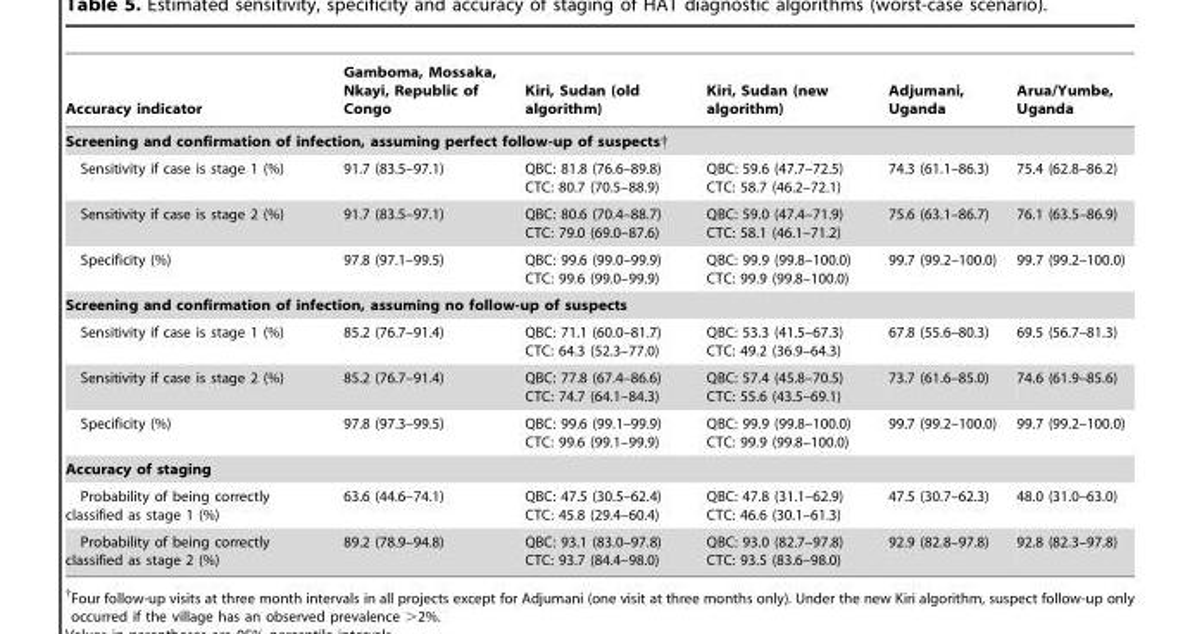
<table><thead><tr><td>Accuracy indicator</td><td>Gamboma, Mossaka, Nkayi, Republic of Congo</td><td>Kiri, Sudan (old algorithm)</td><td>Kiri, Sudan (new algorithm)</td><td>Adjumani, Uganda</td><td>Arua/Yumbe, Uganda</td></tr></thead><tbody><tr><td colspan="6">Screening and confirmation of infection, assuming perfect follow-up of suspects†</td></tr><tr><td>Sensitivity if case is stage 1 (%)</td><td>91.7 (83.5–97.1)</td><td>QBC: 81.8 (76.6–89.8) CTC: 80.7 (70.5–88.9)</td><td>QBC: 59.6 (47.7–72.5) CTC: 58.7 (46.2–72.1)</td><td>74.3 (61.1–86.3)</td><td>75.4 (62.8–86.2)</td></tr><tr><td>Sensitivity if case is stage 2 (%)</td><td>91.7 (83.5–97.1)</td><td>QBC: 80.6 (70.4–88.7) CTC: 79.0 (69.0–87.6)</td><td>QBC: 59.0 (47.4–71.9) CTC: 58.1 (46.1–71.2)</td><td>75.6 (63.1–86.7)</td><td>76.1 (63.5–86.9)</td></tr><tr><td>Specificity (%)</td><td>97.8 (97.1–99.5)</td><td>QBC: 99.6 (99.0–99.9) CTC: 99.6 (99.0–99.9)</td><td>QBC: 99.9 (99.8–100.0) CTC: 99.9 (99.8–100.0)</td><td>99.7 (99.2–100.0)</td><td>99.7 (99.2–100.0)</td></tr><tr><td colspan="6">Screening and confirmation of infection, assuming no follow-up of suspects</td></tr><tr><td>Sensitivity if case is stage 1 (%)</td><td>85.2 (76.7–91.4)</td><td>QBC: 71.1 (60.0–81.7) CTC: 64.3 (52.3–77.0)</td><td>QBC: 53.3 (41.5–67.3) CTC: 49.2 (36.9–64.3)</td><td>67.8 (55.6–80.3)</td><td>69.5 (56.7–81.3)</td></tr><tr><td>Sensitivity if case is stage 2 (%)</td><td>85.2 (76.7–91.4)</td><td>QBC: 77.8 (67.4–86.6) CTC: 74.7 (64.1–84.3)</td><td>QBC: 57.4 (45.8–70.5) CTC: 55.6 (43.5–69.1)</td><td>73.7 (61.6–85.0)</td><td>74.6 (61.9–85.6)</td></tr><tr><td>Specificity (%)</td><td>97.8 (97.3–99.5)</td><td>QBC: 99.6 (99.1–99.9) CTC: 99.6 (99.1–99.9)</td><td>QBC: 99.9 (99.8–100.0) CTC: 99.9 (99.8–100.0)</td><td>99.7 (99.2–100.0)</td><td>99.7 (99.2–100.0)</td></tr><tr><td colspan="6">Accuracy of staging</td></tr><tr><td>Probability of being correctly classified as stage 1 (%)</td><td>63.6 (44.6–74.1)</td><td>QBC: 47.5 (30.5–62.4) CTC: 45.8 (29.4–60.4)</td><td>QBC: 47.8 (31.1–62.9) CTC: 46.6 (30.1–61.3)</td><td>47.5 (30.7–62.3)</td><td>48.0 (31.0–63.0)</td></tr><tr><td>Probability of being correctly classified as stage 2 (%)</td><td>89.2 (78.9–94.8)</td><td>QBC: 93.1 (83.0–97.8) CTC: 93.7 (84.4–98.0)</td><td>QBC: 93.0 (82.7–97.8) CTC: 93.5 (83.6–98.0)</td><td>92.9 (82.8–97.8)</td><td>92.8 (82.3–97.8)</td></tr></tbody></table>